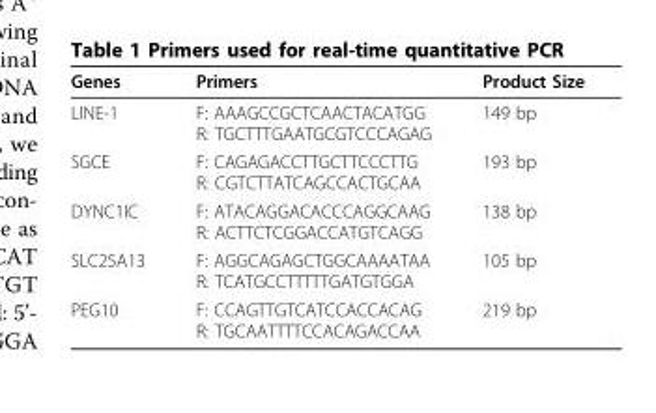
<table><thead><tr><td>Genes</td><td>Primers</td><td>Product Size</td></tr></thead><tbody><tr><td>LINE-1</td><td>F: AAAGCCGCTCAACTACATGG R: TGCTTTGAATGCGTCCCAGAG</td><td>149 bp</td></tr><tr><td>SGCE</td><td>F: CAGAGACCTTGCTTCCCTTG R: CGTCTTATCAGCCACTGCAA</td><td>193 bp</td></tr><tr><td>DYNC1IC</td><td>F: ATACAGGACACCCAGGCAAG R: ACTTCTCGGACCATGTCAGG</td><td>138 bp</td></tr><tr><td>SLC25A13</td><td>F: AGGCAGAGCTGGCAAAATAA R: TCATGCCTTTTTGATGTGGA</td><td>105 bp</td></tr><tr><td>PEG10</td><td>F: CCAGTTGTCATCCACCACAG R: TGCAATTTTCCACAGACCAA</td><td>219 bp</td></tr></tbody></table>